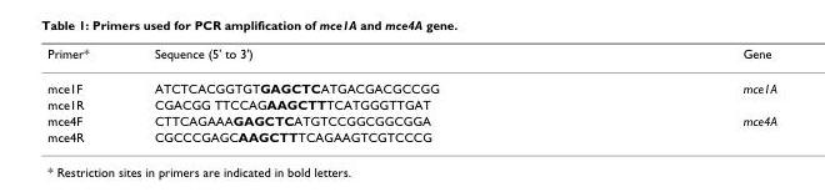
<table><thead><tr><td>Primer*</td><td>Sequence (5&#x27; to 3&#x27;)</td><td>Gene</td></tr></thead><tbody><tr><td>mce1F</td><td>ATCTCACGGTGTGAGCTCATGACGACGCCGG</td><td>mce1A</td></tr><tr><td>mce1R</td><td>CGACGG TTCCAGAAGCTTTCATGGGTTGAT</td><td></td></tr><tr><td>mce4F</td><td>CTTCAGAAAGAGCTCATGTCCGGCGGCGGA</td><td>mce4A</td></tr><tr><td>mce4R</td><td>CGCCCGAGCAAGCTTTCAGAAGTCGTCCCG</td><td></td></tr></tbody></table>